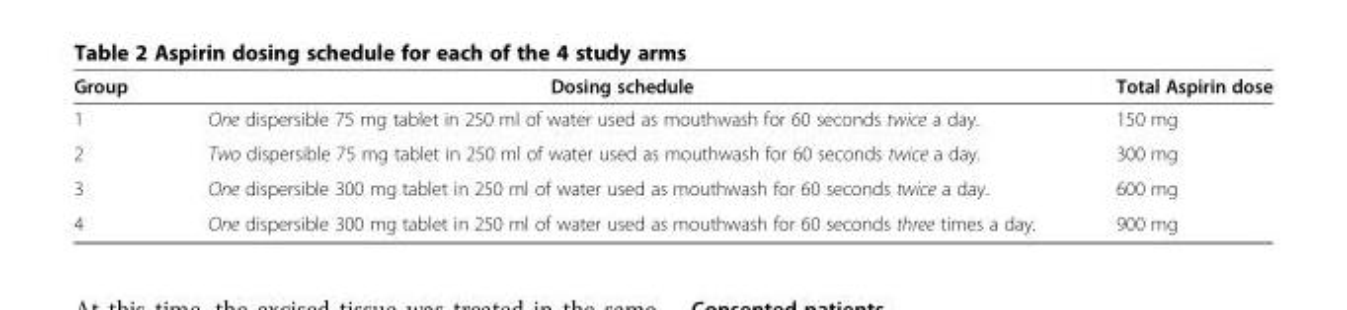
<table><thead><tr><td>Group</td><td>Dosing schedule</td><td>Total Aspirin dose</td></tr></thead><tbody><tr><td>1</td><td>One dispersible 75 mg tablet in 250 ml of water used as mouthwash for 60 seconds twice a day.</td><td>150 mg</td></tr><tr><td>2</td><td>Two dispersible 75 mg tablet in 250 ml of water used as mouthwash for 60 seconds twice a day.</td><td>300 mg</td></tr><tr><td>3</td><td>One dispersible 300 mg tablet in 250 ml of water used as mouthwash for 60 seconds twice a day.</td><td>600 mg</td></tr><tr><td>4</td><td>One dispersible 300 mg tablet in 250 ml of water used as mouthwash for 60 seconds three times a day.</td><td>900 mg</td></tr></tbody></table>